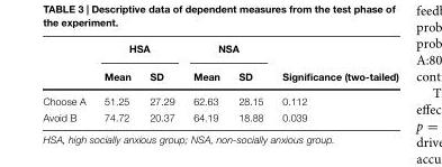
<table><thead><tr><td rowspan="2"></td><td colspan="2">HSA</td><td colspan="2">NSA</td><td rowspan="2">Significance (two-tailed)</td></tr><tr><td>Mean</td><td>SD</td><td>Mean</td><td>SD</td></tr></thead><tbody><tr><td>Choose A</td><td>51.25</td><td>27.29</td><td>62.63</td><td>28.15</td><td>0.112</td></tr><tr><td>Avoid B</td><td>74.72</td><td>20.37</td><td>64.19</td><td>18.88</td><td>0.039</td></tr></tbody></table>